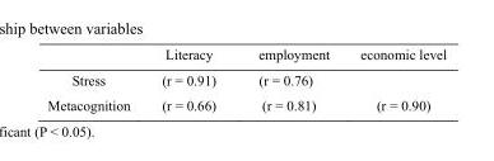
<table><thead><tr><td></td><td>Literacy</td><td>employment</td><td>economic level</td></tr></thead><tbody><tr><td>Stress</td><td>(r = 0.91)</td><td>(r = 0.76)</td><td></td></tr><tr><td>Metacognition</td><td>(r = 0.66)</td><td>(r = 0.81)</td><td>(r = 0.90)</td></tr></tbody></table>